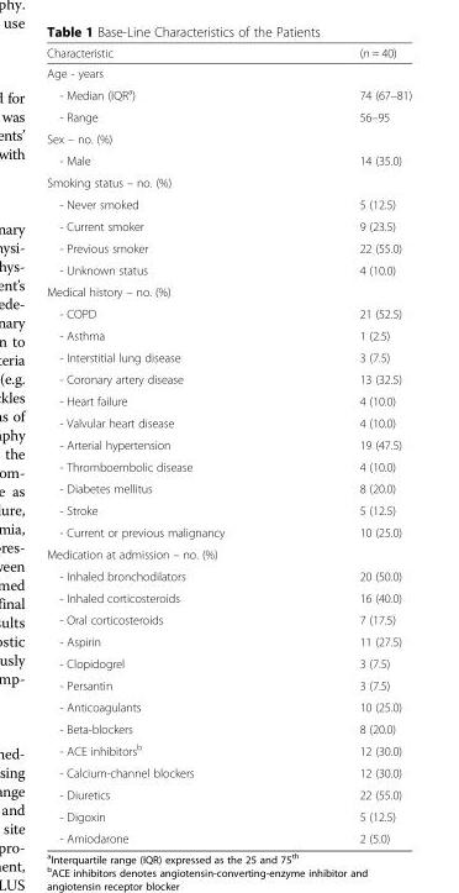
<table><thead><tr><td>Characteristic</td><td>(n = 40)</td></tr></thead><tbody><tr><td colspan="2">Age - years</td></tr><tr><td>- Median (IQR<sup>a</sup>)</td><td>74 (67–81)</td></tr><tr><td>- Range</td><td>56–95</td></tr><tr><td colspan="2">Sex – no. (%)</td></tr><tr><td>- Male</td><td>14 (35.0)</td></tr><tr><td colspan="2">Smoking status – no. (%)</td></tr><tr><td>- Never smoked</td><td>5 (12.5)</td></tr><tr><td>- Current smoker</td><td>9 (23.5)</td></tr><tr><td>- Previous smoker</td><td>22 (55.0)</td></tr><tr><td>- Unknown status</td><td>4 (10.0)</td></tr><tr><td colspan="2">Medical history – no. (%)</td></tr><tr><td>- COPD</td><td>21 (52.5)</td></tr><tr><td>- Asthma</td><td>1 (2.5)</td></tr><tr><td>- Interstitial lung disease</td><td>3 (7.5)</td></tr><tr><td>- Coronary artery disease</td><td>13 (32.5)</td></tr><tr><td>- Heart failure</td><td>4 (10.0)</td></tr><tr><td>- Valvular heart disease</td><td>4 (10.0)</td></tr><tr><td>- Arterial hypertension</td><td>19 (47.5)</td></tr><tr><td>- Thromboembolic disease</td><td>4 (10.0)</td></tr><tr><td>- Diabetes mellitus</td><td>8 (20.0)</td></tr><tr><td>- Stroke</td><td>5 (12.5)</td></tr><tr><td>- Current or previous malignancy</td><td>10 (25.0)</td></tr><tr><td colspan="2">Medication at admission – no. (%)</td></tr><tr><td>- Inhaled bronchodilators</td><td>20 (50.0)</td></tr><tr><td>- Inhaled corticosteroids</td><td>16 (40.0)</td></tr><tr><td>- Oral corticosteroids</td><td>7 (17.5)</td></tr><tr><td>- Aspirin</td><td>11 (27.5)</td></tr><tr><td>- Clopidogrel</td><td>3 (7.5)</td></tr><tr><td>- Persantin</td><td>3 (7.5)</td></tr><tr><td>- Anticoagulants</td><td>10 (25.0)</td></tr><tr><td>- Beta-blockers</td><td>8 (20.0)</td></tr><tr><td>- ACE inhibitors<sup>b</sup></td><td>12 (30.0)</td></tr><tr><td>- Calcium-channel blockers</td><td>12 (30.0)</td></tr><tr><td>- Diuretics</td><td>22 (55.0)</td></tr><tr><td>- Digoxin</td><td>5 (12.5)</td></tr><tr><td>- Amiodarone</td><td>2 (5.0)</td></tr></tbody></table>